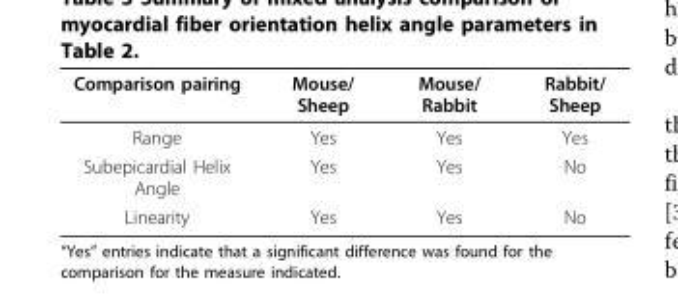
<table><thead><tr><td>Comparison pairing</td><td>Mouse/ Sheep</td><td>Mouse/ Rabbit</td><td>Rabbit/ Sheep</td></tr></thead><tbody><tr><td>Range</td><td>Yes</td><td>Yes</td><td>Yes</td></tr><tr><td>Subepicardial Helix Angle</td><td>Yes</td><td>Yes</td><td>No</td></tr><tr><td>Linearity</td><td>Yes</td><td>Yes</td><td>No</td></tr></tbody></table>